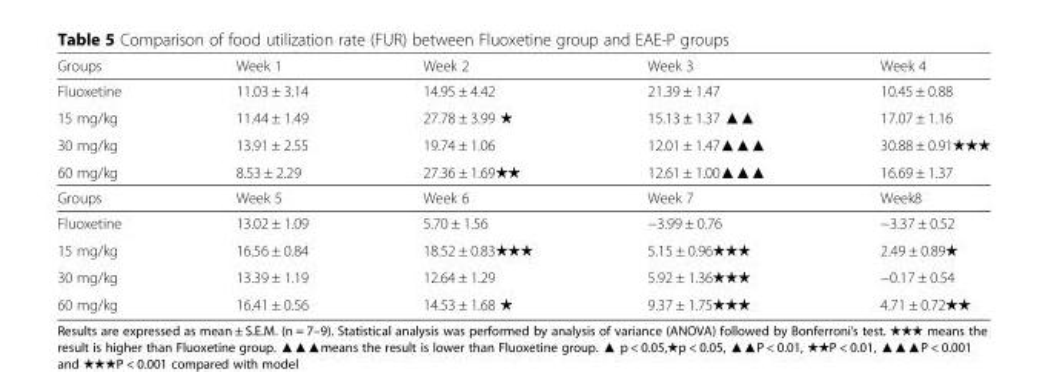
<table><thead><tr><td>Groups</td><td>Week 1</td><td>Week 2</td><td>Week 3</td><td>Week 4</td></tr></thead><tbody><tr><td>Fluoxetine</td><td>11.03 ± 3.14</td><td>14.95 ± 4.42</td><td>21.39 ± 1.47</td><td>10.45 ± 0.88</td></tr><tr><td>15 mg/kg</td><td>11.44 ± 1.49</td><td>27.78 ± 3.99 ★</td><td>15.13 ± 1.37 ▲▲</td><td>17.07 ± 1.16</td></tr><tr><td>30 mg/kg</td><td>13.91 ± 2.55</td><td>19.74 ± 1.06</td><td>12.01 ± 1.47▲▲▲</td><td>30.88 ± 0.91★★★</td></tr><tr><td>60 mg/kg</td><td>8.53 ± 2.29</td><td>27.36 ± 1.69★★</td><td>12.61 ± 1.00▲▲▲</td><td>16.69 ± 1.37</td></tr><tr><td>Groups</td><td>Week 5</td><td>Week 6</td><td>Week 7</td><td>Week8</td></tr><tr><td>Fluoxetine</td><td>13.02 ± 1.09</td><td>5.70 ± 1.56</td><td>−3.99 ± 0.76</td><td>−3.37 ± 0.52</td></tr><tr><td>15 mg/kg</td><td>16.56 ± 0.84</td><td>18.52 ± 0.83★★★</td><td>5.15 ± 0.96★★★</td><td>2.49 ± 0.89★</td></tr><tr><td>30 mg/kg</td><td>13.39 ± 1.19</td><td>12.64 ± 1.29</td><td>5.92 ± 1.36★★★</td><td>−0.17 ± 0.54</td></tr><tr><td>60 mg/kg</td><td>16.41 ± 0.56</td><td>14.53 ± 1.68 ★</td><td>9.37 ± 1.75★★★</td><td>4.71 ± 0.72★★</td></tr></tbody></table>